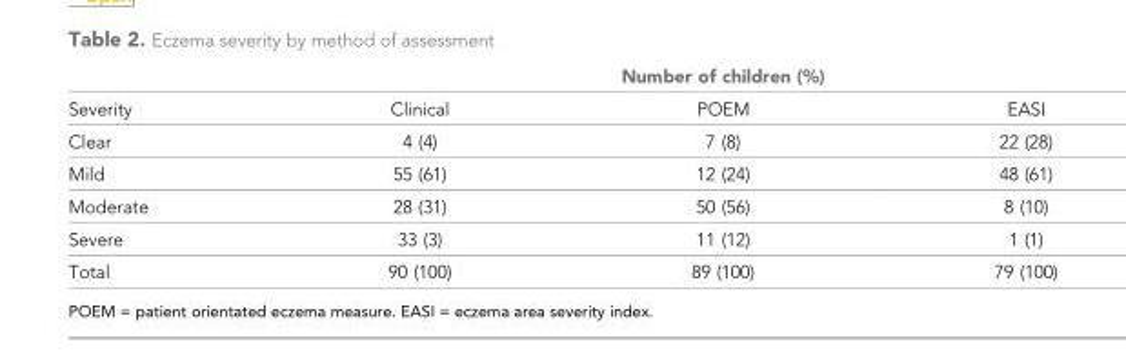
<table><thead><tr><td rowspan="2">Severity</td><td colspan="3">Number of children (%)</td></tr><tr><td>Clinical</td><td>POEM</td><td>EASI</td></tr></thead><tbody><tr><td>Clear</td><td>4 (4)</td><td>7 (8)</td><td>22 (28)</td></tr><tr><td>Mild</td><td>55 (61)</td><td>12 (24)</td><td>48 (61)</td></tr><tr><td>Moderate</td><td>28 (31)</td><td>50 (56)</td><td>8 (10)</td></tr><tr><td>Severe</td><td>33 (3)</td><td>11 (12)</td><td>1 (1)</td></tr><tr><td>Total</td><td>90 (100)</td><td>89 (100)</td><td>79 (100)</td></tr></tbody></table>